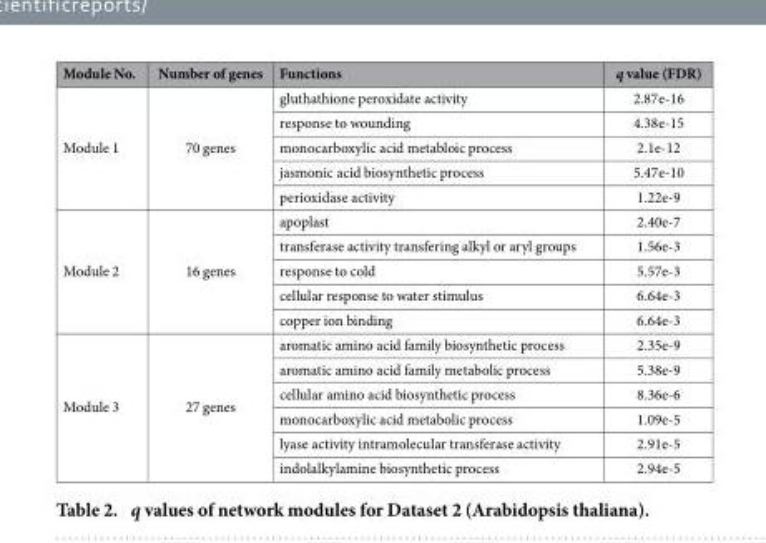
<table><thead><tr><td>Module No.</td><td>Number of genes</td><td>Functions</td><td>q value (FDR)</td></tr></thead><tbody><tr><td rowspan="5">Module 1</td><td rowspan="5">70 genes</td><td>gluthathione peroxidate activity</td><td>2.87e-16</td></tr><tr><td>response to wounding</td><td>4.38e-15</td></tr><tr><td>monocarboxylic acid metabloic process</td><td>2.1e-12</td></tr><tr><td>jasmonic acid biosynthetic process</td><td>5.47e-10</td></tr><tr><td>perioxidase activity</td><td>1.22e-9</td></tr><tr><td rowspan="5">Module 2</td><td rowspan="5">16 genes</td><td>apoplast</td><td>2.40e-7</td></tr><tr><td>transferase activity transfering alkyl or aryl groups</td><td>1.56e-3</td></tr><tr><td>response to cold</td><td>5.57e-3</td></tr><tr><td>cellular response to water stimulus</td><td>6.64e-3</td></tr><tr><td>copper ion binding</td><td>6.64e-3</td></tr><tr><td rowspan="6">Module 3</td><td rowspan="6">27 genes</td><td>aromatic amino acid family biosynthetic process</td><td>2.35e-9</td></tr><tr><td>aromatic amino acid family metabolic process</td><td>5.38e-9</td></tr><tr><td>cellular amino acid biosynthetic process</td><td>8.36e-6</td></tr><tr><td>monocarboxylic acid metabolic process</td><td>1.09e-5</td></tr><tr><td>lyase activity intramolecular transferase activity</td><td>2.91e-5</td></tr><tr><td>indolalkylamine biosynthetic process</td><td>2.94e-5</td></tr></tbody></table>